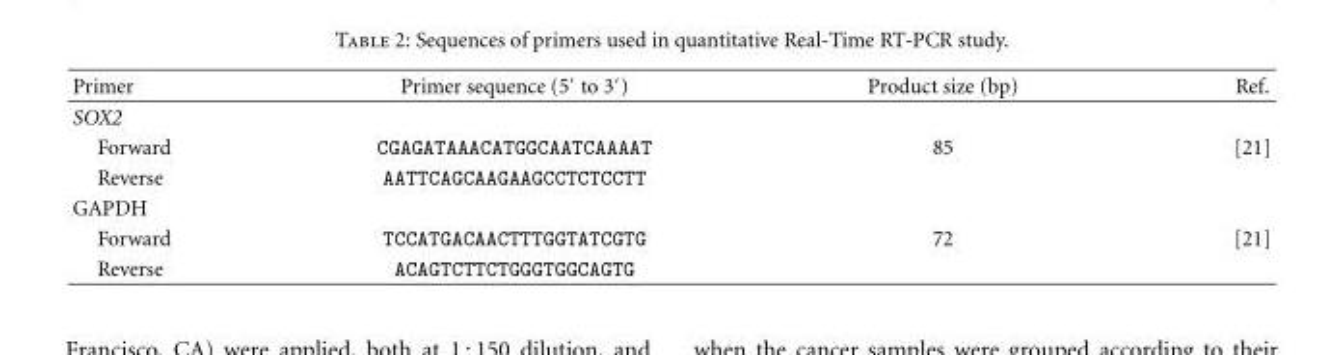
<table><thead><tr><td>Primer</td><td>Primer sequence (5′ to 3′)</td><td>Product size (bp)</td><td>Ref.</td></tr></thead><tbody><tr><td colspan="4">SOX2</td></tr><tr><td>Forward</td><td>CGAGATAAACATGGCAATCAAAAT</td><td>85</td><td>[21]</td></tr><tr><td>Reverse</td><td>AATTCAGCAAGAAGCCTCTCCTT</td><td></td><td></td></tr><tr><td colspan="4">GAPDH</td></tr><tr><td>Forward</td><td>TCCATGACAACTTTGGTATCGTG</td><td>72</td><td>[21]</td></tr><tr><td>Reverse</td><td>ACAGTCTTCTGGGTGGCAGTG</td><td></td><td></td></tr></tbody></table>